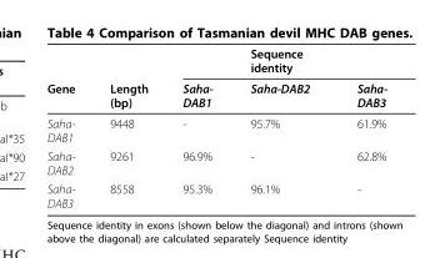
<table><thead><tr><td rowspan="2">Gene</td><td rowspan="2">Length (bp)</td><td rowspan="2">Saha- DAB1</td><td rowspan="2">Sequence identity Saha-DAB2</td><td rowspan="2">Saha- DAB3</td></tr><tr></tr></thead><tbody><tr><td>Saha- DAB1</td><td>9448</td><td>-</td><td>95.7%</td><td>61.9%</td></tr><tr><td>Saha- DAB2</td><td>9261</td><td>96.9%</td><td>-</td><td>62.8%</td></tr><tr><td>Saha- DAB3</td><td>8558</td><td>95.3%</td><td>96.1%</td><td>-</td></tr></tbody></table>